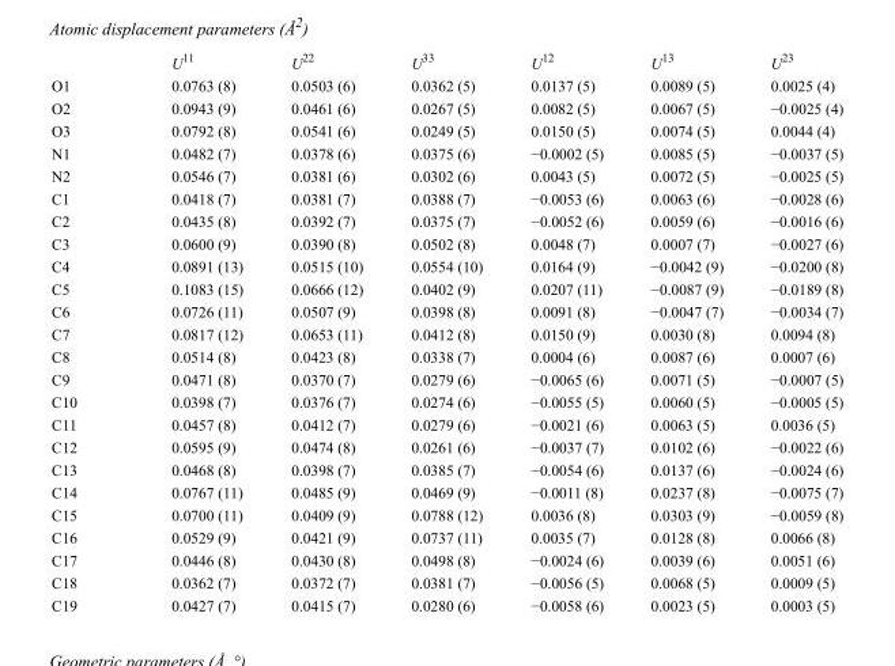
<table><thead><tr><td></td><td>U<sup>11</sup></td><td>U<sup>22</sup></td><td>U<sup>33</sup></td><td>U<sup>12</sup></td><td>U<sup>13</sup></td><td>U<sup>23</sup></td></tr></thead><tbody><tr><td>O1</td><td>0.0763 (8)</td><td>0.0503 (6)</td><td>0.0362 (5)</td><td>0.0137 (5)</td><td>0.0089 (5)</td><td>0.0025 (4)</td></tr><tr><td>O2</td><td>0.0943 (9)</td><td>0.0461 (6)</td><td>0.0267 (5)</td><td>0.0082 (5)</td><td>0.0067 (5)</td><td>−0.0025 (4)</td></tr><tr><td>O3</td><td>0.0792 (8)</td><td>0.0541 (6)</td><td>0.0249 (5)</td><td>0.0150 (5)</td><td>0.0074 (5)</td><td>0.0044 (4)</td></tr><tr><td>N1</td><td>0.0482 (7)</td><td>0.0378 (6)</td><td>0.0375 (6)</td><td>−0.0002 (5)</td><td>0.0085 (5)</td><td>−0.0037 (5)</td></tr><tr><td>N2</td><td>0.0546 (7)</td><td>0.0381 (6)</td><td>0.0302 (6)</td><td>0.0043 (5)</td><td>0.0072 (5)</td><td>−0.0025 (5)</td></tr><tr><td>C1</td><td>0.0418 (7)</td><td>0.0381 (7)</td><td>0.0388 (7)</td><td>−0.0053 (6)</td><td>0.0063 (6)</td><td>−0.0028 (6)</td></tr><tr><td>C2</td><td>0.0435 (8)</td><td>0.0392 (7)</td><td>0.0375 (7)</td><td>−0.0052 (6)</td><td>0.0059 (6)</td><td>−0.0016 (6)</td></tr><tr><td>C3</td><td>0.0600 (9)</td><td>0.0390 (8)</td><td>0.0502 (8)</td><td>0.0048 (7)</td><td>0.0007 (7)</td><td>−0.0027 (6)</td></tr><tr><td>C4</td><td>0.0891 (13)</td><td>0.0515 (10)</td><td>0.0554 (10)</td><td>0.0164 (9)</td><td>−0.0042 (9)</td><td>−0.0200 (8)</td></tr><tr><td>C5</td><td>0.1083 (15)</td><td>0.0666 (12)</td><td>0.0402 (9)</td><td>0.0207 (11)</td><td>−0.0087 (9)</td><td>−0.0189 (8)</td></tr><tr><td>C6</td><td>0.0726 (11)</td><td>0.0507 (9)</td><td>0.0398 (8)</td><td>0.0091 (8)</td><td>−0.0047 (7)</td><td>−0.0034 (7)</td></tr><tr><td>C7</td><td>0.0817 (12)</td><td>0.0653 (11)</td><td>0.0412 (8)</td><td>0.0150 (9)</td><td>0.0030 (8)</td><td>0.0094 (8)</td></tr><tr><td>C8</td><td>0.0514 (8)</td><td>0.0423 (8)</td><td>0.0338 (7)</td><td>0.0004 (6)</td><td>0.0087 (6)</td><td>0.0007 (6)</td></tr><tr><td>C9</td><td>0.0471 (8)</td><td>0.0370 (7)</td><td>0.0279 (6)</td><td>−0.0065 (6)</td><td>0.0071 (5)</td><td>−0.0007 (5)</td></tr><tr><td>C10</td><td>0.0398 (7)</td><td>0.0376 (7)</td><td>0.0274 (6)</td><td>−0.0055 (5)</td><td>0.0060 (5)</td><td>−0.0005 (5)</td></tr><tr><td>C11</td><td>0.0457 (8)</td><td>0.0412 (7)</td><td>0.0279 (6)</td><td>−0.0021 (6)</td><td>0.0063 (5)</td><td>0.0036 (5)</td></tr><tr><td>C12</td><td>0.0595 (9)</td><td>0.0474 (8)</td><td>0.0261 (6)</td><td>−0.0037 (7)</td><td>0.0102 (6)</td><td>−0.0022 (6)</td></tr><tr><td>C13</td><td>0.0468 (8)</td><td>0.0398 (7)</td><td>0.0385 (7)</td><td>−0.0054 (6)</td><td>0.0137 (6)</td><td>−0.0024 (6)</td></tr><tr><td>C14</td><td>0.0767 (11)</td><td>0.0485 (9)</td><td>0.0469 (9)</td><td>−0.0011 (8)</td><td>0.0237 (8)</td><td>−0.0075 (7)</td></tr><tr><td>C15</td><td>0.0700 (11)</td><td>0.0409 (9)</td><td>0.0788 (12)</td><td>0.0036 (8)</td><td>0.0303 (9)</td><td>−0.0059 (8)</td></tr><tr><td>C16</td><td>0.0529 (9)</td><td>0.0421 (9)</td><td>0.0737 (11)</td><td>0.0035 (7)</td><td>0.0128 (8)</td><td>0.0066 (8)</td></tr><tr><td>C17</td><td>0.0446 (8)</td><td>0.0430 (8)</td><td>0.0498 (8)</td><td>−0.0024 (6)</td><td>0.0039 (6)</td><td>0.0051 (6)</td></tr><tr><td>C18</td><td>0.0362 (7)</td><td>0.0372 (7)</td><td>0.0381 (7)</td><td>−0.0056 (5)</td><td>0.0068 (5)</td><td>0.0009 (5)</td></tr><tr><td>C19</td><td>0.0427 (7)</td><td>0.0415 (7)</td><td>0.0280 (6)</td><td>−0.0058 (6)</td><td>0.0023 (5)</td><td>0.0003 (5)</td></tr></tbody></table>